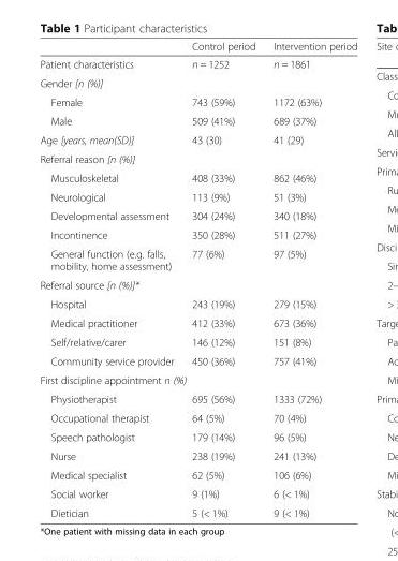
<table><thead><tr><td></td><td>Control period</td><td>Intervention period</td></tr></thead><tbody><tr><td>Patient characteristics</td><td>n = 1252</td><td>n = 1861</td></tr><tr><td colspan="3">Gender [n (%)]</td></tr><tr><td>Female</td><td>743 (59%)</td><td>1172 (63%)</td></tr><tr><td>Male</td><td>509 (41%)</td><td>689 (37%)</td></tr><tr><td>Age [years, mean(SD)]</td><td>43 (30)</td><td>41 (29)</td></tr><tr><td colspan="3">Referral reason [n (%)]</td></tr><tr><td>Musculoskeletal</td><td>408 (33%)</td><td>862 (46%)</td></tr><tr><td>Neurological</td><td>113 (9%)</td><td>51 (3%)</td></tr><tr><td>Developmental assessment</td><td>304 (24%)</td><td>340 (18%)</td></tr><tr><td>Incontinence</td><td>350 (28%)</td><td>511 (27%)</td></tr><tr><td>General function (e.g. falls, mobility, home assessment)</td><td>77 (6%)</td><td>97 (5%)</td></tr><tr><td colspan="3">Referral source [n (%)]*</td></tr><tr><td>Hospital</td><td>243 (19%)</td><td>279 (15%)</td></tr><tr><td>Medical practitioner</td><td>412 (33%)</td><td>673 (36%)</td></tr><tr><td>Self/relative/carer</td><td>146 (12%)</td><td>151 (8%)</td></tr><tr><td>Community service provider</td><td>450 (36%)</td><td>757 (41%)</td></tr><tr><td colspan="3">First discipline appointment n (%)</td></tr><tr><td>Physiotherapist</td><td>695 (56%)</td><td>1333 (72%)</td></tr><tr><td>Occupational therapist</td><td>64 (5%)</td><td>70 (4%)</td></tr><tr><td>Speech pathologist</td><td>179 (14%)</td><td>96 (5%)</td></tr><tr><td>Nurse</td><td>238 (19%)</td><td>241 (13%)</td></tr><tr><td>Medical specialist</td><td>62 (5%)</td><td>106 (6%)</td></tr><tr><td>Social worker</td><td>9 (1%)</td><td>6 (&lt; 1%)</td></tr><tr><td>Dietician</td><td>5 (&lt; 1%)</td><td>9 (&lt; 1%)</td></tr></tbody></table>